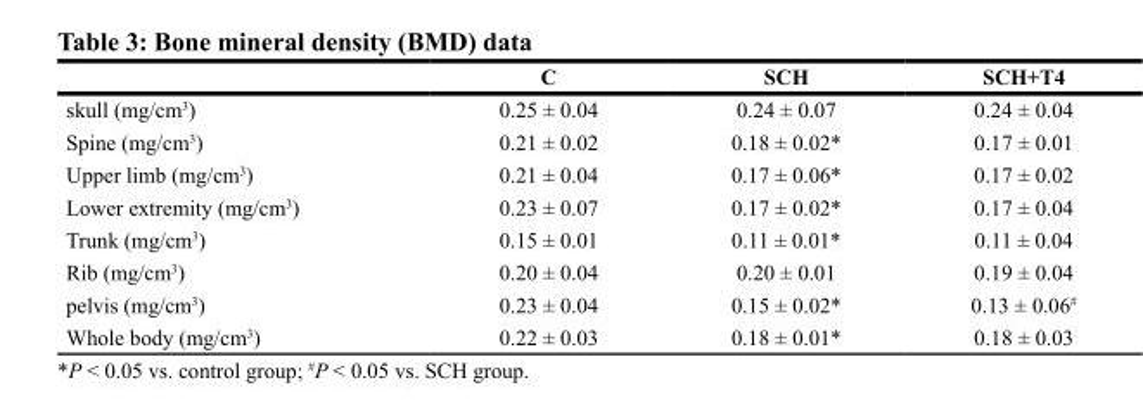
<table><thead><tr><td></td><td>C</td><td>SCH</td><td>SCH+T4</td></tr></thead><tbody><tr><td>skull (mg/cm<sup>3</sup>)</td><td>0.25 ± 0.04</td><td>0.24 ± 0.07</td><td>0.24 ± 0.04</td></tr><tr><td>Spine (mg/cm<sup>3</sup>)</td><td>0.21 ± 0.02</td><td>0.18 ± 0.02*</td><td>0.17 ± 0.01</td></tr><tr><td>Upper limb (mg/cm<sup>3</sup>)</td><td>0.21 ± 0.04</td><td>0.17 ± 0.06*</td><td>0.17 ± 0.02</td></tr><tr><td>Lower extremity (mg/cm<sup>3</sup>)</td><td>0.23 ± 0.07</td><td>0.17 ± 0.02*</td><td>0.17 ± 0.04</td></tr><tr><td>Trunk (mg/cm<sup>3</sup>)</td><td>0.15 ± 0.01</td><td>0.11 ± 0.01*</td><td>0.11 ± 0.04</td></tr><tr><td>Rib (mg/cm<sup>3</sup>)</td><td>0.20 ± 0.04</td><td>0.20 ± 0.01</td><td>0.19 ± 0.04</td></tr><tr><td>pelvis (mg/cm<sup>3</sup>)</td><td>0.23 ± 0.04</td><td>0.15 ± 0.02*</td><td>0.13 ± 0.06<sup>#</sup></td></tr><tr><td>Whole body (mg/cm<sup>3</sup>)</td><td>0.22 ± 0.03</td><td>0.18 ± 0.01*</td><td>0.18 ± 0.03</td></tr></tbody></table>